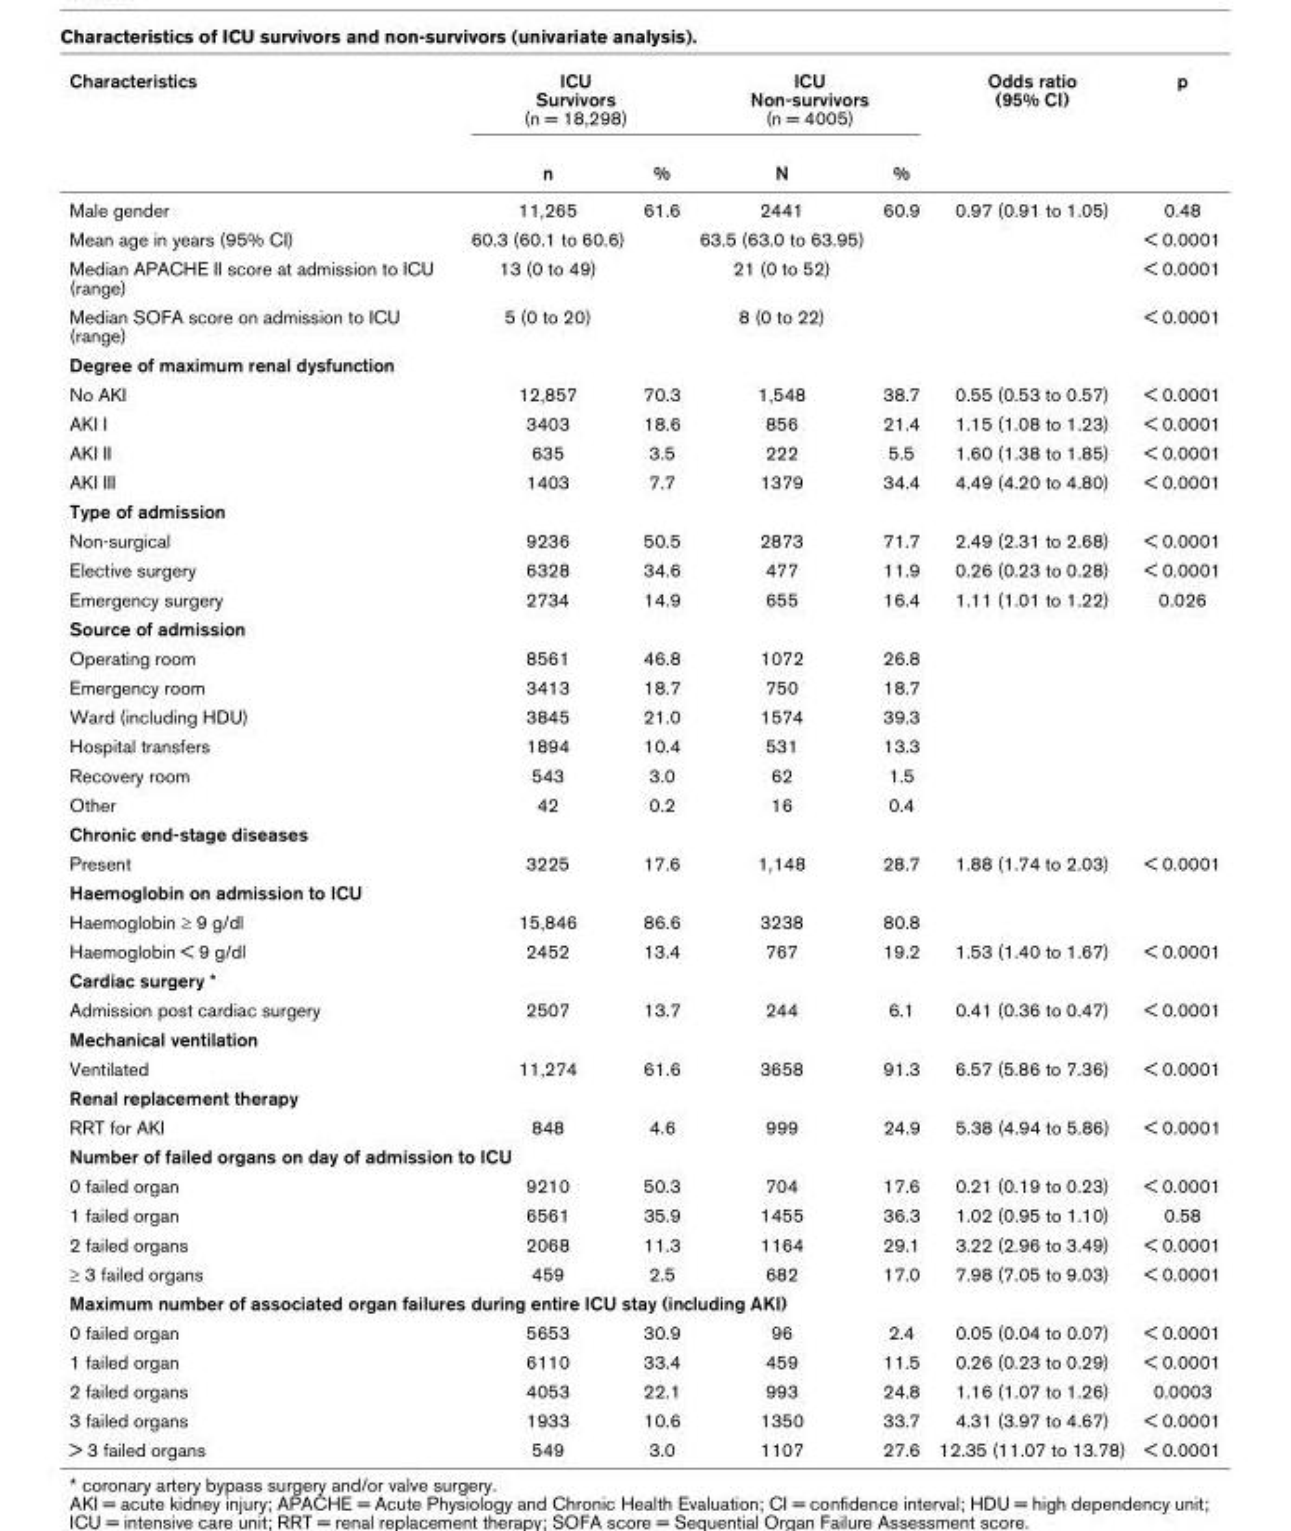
<table><thead><tr><td rowspan="2">Characteristics</td><td colspan="2">ICU Survivors (n = 18,298)</td><td colspan="2">ICU Non-survivors (n = 4005)</td><td rowspan="2">Odds ratio (95% CI)</td><td rowspan="2">p</td></tr><tr><td>n</td><td>%</td><td>N</td><td>%</td></tr></thead><tbody><tr><td>Male gender</td><td>11,265</td><td>61.6</td><td>2441</td><td>60.9</td><td>0.97 (0.91 to 1.05)</td><td>0.48</td></tr><tr><td>Mean age in years (95% CI)</td><td>60.3 (60.1 to 60.6)</td><td></td><td>63.5 (63.0 to 63.95)</td><td></td><td></td><td>&lt; 0.0001</td></tr><tr><td>Median APACHE II score at admission to ICU (range)</td><td>13 (0 to 49)</td><td></td><td>21 (0 to 52)</td><td></td><td></td><td>&lt; 0.0001</td></tr><tr><td>Median SOFA score on admission to ICU (range)</td><td>5 (0 to 20)</td><td></td><td>8 (0 to 22)</td><td></td><td></td><td>&lt; 0.0001</td></tr><tr><td colspan="7">Degree of maximum renal dysfunction</td></tr><tr><td>No AKI</td><td>12,857</td><td>70.3</td><td>1,548</td><td>38.7</td><td>0.55 (0.53 to 0.57)</td><td>&lt; 0.0001</td></tr><tr><td>AKI I</td><td>3403</td><td>18.6</td><td>856</td><td>21.4</td><td>1.15 (1.08 to 1.23)</td><td>&lt; 0.0001</td></tr><tr><td>AKI II</td><td>635</td><td>3.5</td><td>222</td><td>5.5</td><td>1.60 (1.38 to 1.85)</td><td>&lt; 0.0001</td></tr><tr><td>AKI III</td><td>1403</td><td>7.7</td><td>1379</td><td>34.4</td><td>4.49 (4.20 to 4.80)</td><td>&lt; 0.0001</td></tr><tr><td colspan="7">Type of admission</td></tr><tr><td>Non-surgical</td><td>9236</td><td>50.5</td><td>2873</td><td>71.7</td><td>2.49 (2.31 to 2.68)</td><td>&lt; 0.0001</td></tr><tr><td>Elective surgery</td><td>6328</td><td>34.6</td><td>477</td><td>11.9</td><td>0.26 (0.23 to 0.28)</td><td>&lt; 0.0001</td></tr><tr><td>Emergency surgery</td><td>2734</td><td>14.9</td><td>655</td><td>16.4</td><td>1.11 (1.01 to 1.22)</td><td>0.026</td></tr><tr><td colspan="7">Source of admission</td></tr><tr><td>Operating room</td><td>8561</td><td>46.8</td><td>1072</td><td>26.8</td><td></td><td></td></tr><tr><td>Emergency room</td><td>3413</td><td>18.7</td><td>750</td><td>18.7</td><td></td><td></td></tr><tr><td>Ward (including HDU)</td><td>3845</td><td>21.0</td><td>1574</td><td>39.3</td><td></td><td></td></tr><tr><td>Hospital transfers</td><td>1894</td><td>10.4</td><td>531</td><td>13.3</td><td></td><td></td></tr><tr><td>Recovery room</td><td>543</td><td>3.0</td><td>62</td><td>1.5</td><td></td><td></td></tr><tr><td>Other</td><td>42</td><td>0.2</td><td>16</td><td>0.4</td><td></td><td></td></tr><tr><td colspan="7">Chronic end-stage diseases</td></tr><tr><td>Present</td><td>3225</td><td>17.6</td><td>1,148</td><td>28.7</td><td>1.88 (1.74 to 2.03)</td><td>&lt; 0.0001</td></tr><tr><td colspan="7">Haemoglobin on admission to ICU</td></tr><tr><td>Haemoglobin ≥ 9 g/dl</td><td>15,846</td><td>86.6</td><td>3238</td><td>80.8</td><td></td><td></td></tr><tr><td>Haemoglobin &lt; 9 g/dl</td><td>2452</td><td>13.4</td><td>767</td><td>19.2</td><td>1.53 (1.40 to 1.67)</td><td>&lt; 0.0001</td></tr><tr><td colspan="7">Cardiac surgery *</td></tr><tr><td>Admission post cardiac surgery</td><td>2507</td><td>13.7</td><td>244</td><td>6.1</td><td>0.41 (0.36 to 0.47)</td><td>&lt; 0.0001</td></tr><tr><td colspan="7">Mechanical ventilation</td></tr><tr><td>Ventilated</td><td>11,274</td><td>61.6</td><td>3658</td><td>91.3</td><td>6.57 (5.86 to 7.36)</td><td>&lt; 0.0001</td></tr><tr><td colspan="7">Renal replacement therapy</td></tr><tr><td>RRT for AKI</td><td>848</td><td>4.6</td><td>999</td><td>24.9</td><td>5.38 (4.94 to 5.86)</td><td>&lt; 0.0001</td></tr><tr><td colspan="7">Number of failed organs on day of admission to ICU</td></tr><tr><td>0 failed organ</td><td>9210</td><td>50.3</td><td>704</td><td>17.6</td><td>0.21 (0.19 to 0.23)</td><td>&lt; 0.0001</td></tr><tr><td>1 failed organ</td><td>6561</td><td>35.9</td><td>1455</td><td>36.3</td><td>1.02 (0.95 to 1.10)</td><td>0.58</td></tr><tr><td>2 failed organs</td><td>2068</td><td>11.3</td><td>1164</td><td>29.1</td><td>3.22 (2.96 to 3.49)</td><td>&lt; 0.0001</td></tr><tr><td>≥ 3 failed organs</td><td>459</td><td>2.5</td><td>682</td><td>17.0</td><td>7.98 (7.05 to 9.03)</td><td>&lt; 0.0001</td></tr><tr><td colspan="7">Maximum number of associated organ failures during entire ICU stay (including AKI)</td></tr><tr><td>0 failed organ</td><td>5653</td><td>30.9</td><td>96</td><td>2.4</td><td>0.05 (0.04 to 0.07)</td><td>&lt; 0.0001</td></tr><tr><td>1 failed organ</td><td>6110</td><td>33.4</td><td>459</td><td>11.5</td><td>0.26 (0.23 to 0.29)</td><td>&lt; 0.0001</td></tr><tr><td>2 failed organs</td><td>4053</td><td>22.1</td><td>993</td><td>24.8</td><td>1.16 (1.07 to 1.26)</td><td>0.0003</td></tr><tr><td>3 failed organs</td><td>1933</td><td>10.6</td><td>1350</td><td>33.7</td><td>4.31 (3.97 to 4.67)</td><td>&lt; 0.0001</td></tr><tr><td>&gt; 3 failed organs</td><td>549</td><td>3.0</td><td>1107</td><td>27.6</td><td>12.35 (11.07 to 13.78)</td><td>&lt; 0.0001</td></tr></tbody></table>